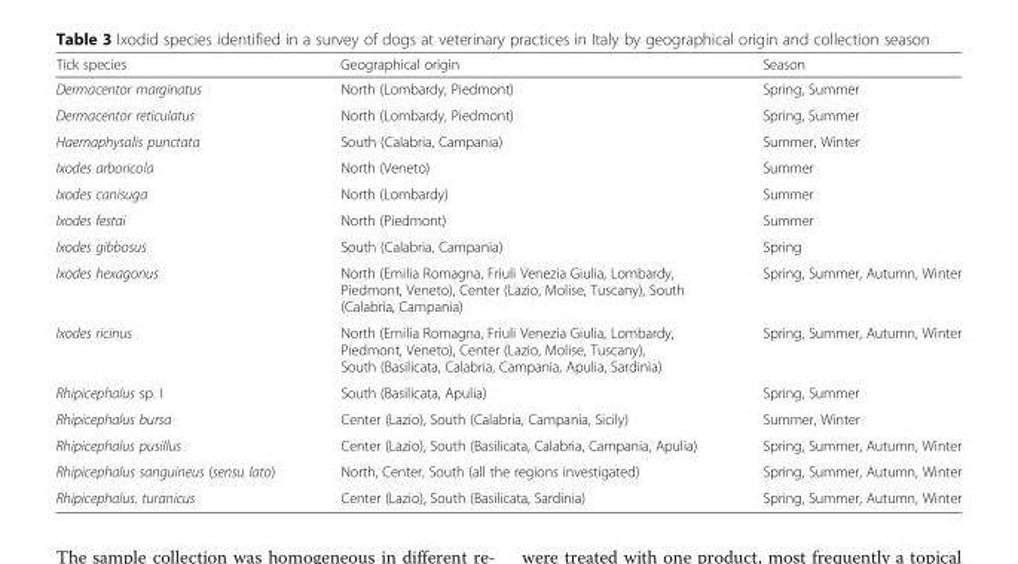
<table><thead><tr><td>Tick species</td><td>Geographical origin</td><td>Season</td></tr></thead><tbody><tr><td>Dermacentor marginatus</td><td>North (Lombardy, Piedmont)</td><td>Spring, Summer</td></tr><tr><td>Dermacentor reticulatus</td><td>North (Lombardy, Piedmont)</td><td>Spring, Summer</td></tr><tr><td>Haemaphysalis punctata</td><td>South (Calabria, Campania)</td><td>Summer, Winter</td></tr><tr><td>Ixodes arboricola</td><td>North (Veneto)</td><td>Summer</td></tr><tr><td>Ixodes canisuga</td><td>North (Lombardy)</td><td>Summer</td></tr><tr><td>Ixodes festai</td><td>North (Piedmont)</td><td>Summer</td></tr><tr><td>Ixodes gibbosus</td><td>South (Calabria, Campania)</td><td>Spring</td></tr><tr><td>Ixodes hexagonus</td><td>North (Emilia Romagna, Friuli Venezia Giulia, Lombardy, Piedmont, Veneto), Center (Lazio, Molise, Tuscany), South (Calabria, Campania)</td><td>Spring, Summer, Autumn, Winter</td></tr><tr><td>Ixodes ricinus</td><td>North (Emilia Romagna, Friuli Venezia Giulia, Lombardy, Piedmont, Veneto), Center (Lazio, Molise, Tuscany), South (Basilicata, Calabria, Campania, Apulia, Sardinia)</td><td>Spring, Summer, Autumn, Winter</td></tr><tr><td>Rhipicephalus sp. I</td><td>South (Basilicata, Apulia)</td><td>Spring, Summer</td></tr><tr><td>Rhipicephalus bursa</td><td>Center (Lazio), South (Calabria, Campania, Sicily)</td><td>Summer, Winter</td></tr><tr><td>Rhipicephalus pusillus</td><td>Center (Lazio), South (Basilicata, Calabria, Campania, Apulia)</td><td>Spring, Summer, Autumn, Winter</td></tr><tr><td>Rhipicephalus sanguineus (sensu lato)</td><td>North, Center, South (all the regions investigated)</td><td>Spring, Summer, Autumn, Winter</td></tr><tr><td>Rhipicephalus. turanicus</td><td>Center (Lazio), South (Basilicata, Sardinia)</td><td>Spring, Summer, Autumn, Winter</td></tr></tbody></table>